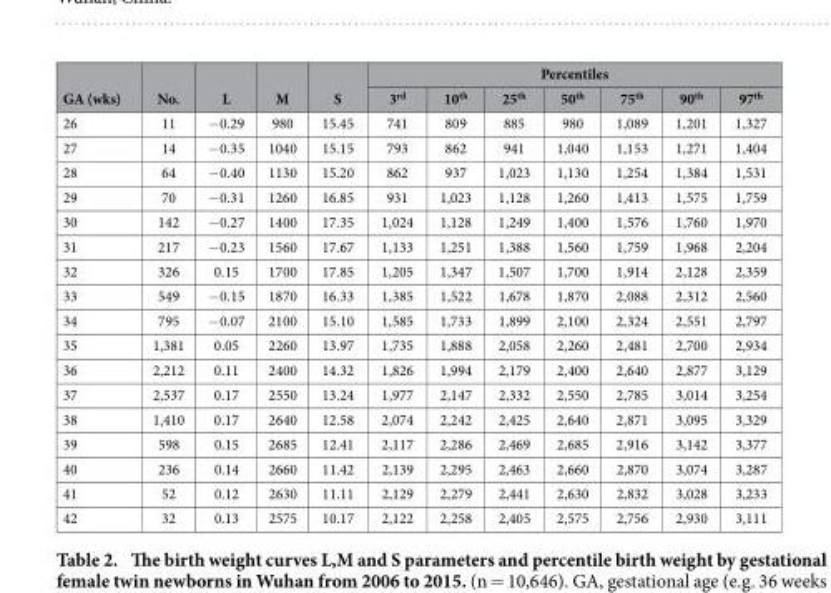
<table><thead><tr><td rowspan="2">GA (wks)</td><td rowspan="2">No.</td><td rowspan="2">L</td><td rowspan="2">M</td><td rowspan="2">S</td><td colspan="7">Percentiles</td></tr><tr><td>3<sup>rd</sup></td><td>10<sup>th</sup></td><td>25<sup>th</sup></td><td>50<sup>th</sup></td><td>75<sup>th</sup></td><td>90<sup>th</sup></td><td>97<sup>th</sup></td></tr></thead><tbody><tr><td>26</td><td>11</td><td>− 0.29</td><td>980</td><td>15.45</td><td>741</td><td>809</td><td>885</td><td>980</td><td>1,089</td><td>1,201</td><td>1,327</td></tr><tr><td>27</td><td>14</td><td>− 0.35</td><td>1040</td><td>15.15</td><td>793</td><td>862</td><td>941</td><td>1,040</td><td>1,153</td><td>1,271</td><td>1,404</td></tr><tr><td>28</td><td>64</td><td>− 0.40</td><td>1130</td><td>15.20</td><td>862</td><td>937</td><td>1,023</td><td>1,130</td><td>1,254</td><td>1,384</td><td>1,531</td></tr><tr><td>29</td><td>70</td><td>− 0.31</td><td>1260</td><td>16.85</td><td>931</td><td>1,023</td><td>1,128</td><td>1,260</td><td>1,413</td><td>1,575</td><td>1,759</td></tr><tr><td>30</td><td>142</td><td>− 0.27</td><td>1400</td><td>17.35</td><td>1,024</td><td>1,128</td><td>1,249</td><td>1,400</td><td>1,576</td><td>1,760</td><td>1,970</td></tr><tr><td>31</td><td>217</td><td>− 0.23</td><td>1560</td><td>17.67</td><td>1,133</td><td>1,251</td><td>1,388</td><td>1,560</td><td>1,759</td><td>1,968</td><td>2,204</td></tr><tr><td>32</td><td>326</td><td>0.15</td><td>1700</td><td>17.85</td><td>1,205</td><td>1,347</td><td>1,507</td><td>1,700</td><td>1,914</td><td>2,128</td><td>2,359</td></tr><tr><td>33</td><td>549</td><td>− 0.15</td><td>1870</td><td>16.33</td><td>1,385</td><td>1,522</td><td>1,678</td><td>1,870</td><td>2,088</td><td>2,312</td><td>2,560</td></tr><tr><td>34</td><td>795</td><td>− 0.07</td><td>2100</td><td>15.10</td><td>1,585</td><td>1,733</td><td>1,899</td><td>2,100</td><td>2,324</td><td>2,551</td><td>2,797</td></tr><tr><td>35</td><td>1,381</td><td>0.05</td><td>2260</td><td>13.97</td><td>1,735</td><td>1,888</td><td>2,058</td><td>2,260</td><td>2,481</td><td>2,700</td><td>2,934</td></tr><tr><td>36</td><td>2,212</td><td>0.11</td><td>2400</td><td>14.32</td><td>1,826</td><td>1,994</td><td>2,179</td><td>2,400</td><td>2,640</td><td>2,877</td><td>3,129</td></tr><tr><td>37</td><td>2,537</td><td>0.17</td><td>2550</td><td>13.24</td><td>1,977</td><td>2,147</td><td>2,332</td><td>2,550</td><td>2,785</td><td>3,014</td><td>3,254</td></tr><tr><td>38</td><td>1,410</td><td>0.17</td><td>2640</td><td>12.58</td><td>2,074</td><td>2,242</td><td>2,425</td><td>2,640</td><td>2,871</td><td>3,095</td><td>3,329</td></tr><tr><td>39</td><td>598</td><td>0.15</td><td>2685</td><td>12.41</td><td>2,117</td><td>2,286</td><td>2,469</td><td>2,685</td><td>2,916</td><td>3,142</td><td>3,377</td></tr><tr><td>40</td><td>236</td><td>0.14</td><td>2660</td><td>11.42</td><td>2,139</td><td>2,295</td><td>2,463</td><td>2,660</td><td>2,870</td><td>3,074</td><td>3,287</td></tr><tr><td>41</td><td>52</td><td>0.12</td><td>2630</td><td>11.11</td><td>2,129</td><td>2,279</td><td>2,441</td><td>2,630</td><td>2,832</td><td>3,028</td><td>3,233</td></tr><tr><td>42</td><td>32</td><td>0.13</td><td>2575</td><td>10.17</td><td>2,122</td><td>2,258</td><td>2,405</td><td>2,575</td><td>2,756</td><td>2,930</td><td>3,111</td></tr></tbody></table>